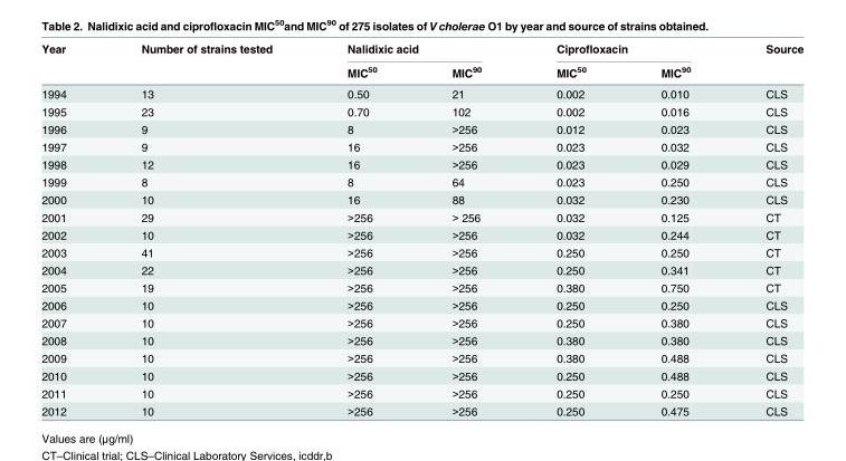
<table><thead><tr><td rowspan="2">Year</td><td rowspan="2">Number of strains tested</td><td colspan="2">Nalidixic acid</td><td colspan="2">Ciprofloxacin</td><td rowspan="2">Source</td></tr><tr><td>MIC<sup>50</sup></td><td>MIC<sup>90</sup></td><td>MIC<sup>50</sup></td><td>MIC<sup>90</sup></td></tr></thead><tbody><tr><td>1994</td><td>13</td><td>0.50</td><td>21</td><td>0.002</td><td>0.010</td><td>CLS</td></tr><tr><td>1995</td><td>23</td><td>0.70</td><td>102</td><td>0.002</td><td>0.016</td><td>CLS</td></tr><tr><td>1996</td><td>9</td><td>8</td><td>&gt;256</td><td>0.012</td><td>0.023</td><td>CLS</td></tr><tr><td>1997</td><td>9</td><td>16</td><td>&gt;256</td><td>0.023</td><td>0.032</td><td>CLS</td></tr><tr><td>1998</td><td>12</td><td>16</td><td>&gt;256</td><td>0.023</td><td>0.029</td><td>CLS</td></tr><tr><td>1999</td><td>8</td><td>8</td><td>64</td><td>0.023</td><td>0.250</td><td>CLS</td></tr><tr><td>2000</td><td>10</td><td>16</td><td>88</td><td>0.032</td><td>0.230</td><td>CLS</td></tr><tr><td>2001</td><td>29</td><td>&gt;256</td><td>&gt; 256</td><td>0.032</td><td>0.125</td><td>CT</td></tr><tr><td>2002</td><td>10</td><td>&gt;256</td><td>&gt;256</td><td>0.032</td><td>0.244</td><td>CT</td></tr><tr><td>2003</td><td>41</td><td>&gt;256</td><td>&gt;256</td><td>0.250</td><td>0.250</td><td>CT</td></tr><tr><td>2004</td><td>22</td><td>&gt;256</td><td>&gt;256</td><td>0.250</td><td>0.341</td><td>CT</td></tr><tr><td>2005</td><td>19</td><td>&gt;256</td><td>&gt;256</td><td>0.380</td><td>0.750</td><td>CT</td></tr><tr><td>2006</td><td>10</td><td>&gt;256</td><td>&gt;256</td><td>0.250</td><td>0.250</td><td>CLS</td></tr><tr><td>2007</td><td>10</td><td>&gt;256</td><td>&gt;256</td><td>0.250</td><td>0.380</td><td>CLS</td></tr><tr><td>2008</td><td>10</td><td>&gt;256</td><td>&gt;256</td><td>0.380</td><td>0.380</td><td>CLS</td></tr><tr><td>2009</td><td>10</td><td>&gt;256</td><td>&gt;256</td><td>0.380</td><td>0.488</td><td>CLS</td></tr><tr><td>2010</td><td>10</td><td>&gt;256</td><td>&gt;256</td><td>0.250</td><td>0.488</td><td>CLS</td></tr><tr><td>2011</td><td>10</td><td>&gt;256</td><td>&gt;256</td><td>0.250</td><td>0.250</td><td>CLS</td></tr><tr><td>2012</td><td>10</td><td>&gt;256</td><td>&gt;256</td><td>0.250</td><td>0.475</td><td>CLS</td></tr></tbody></table>